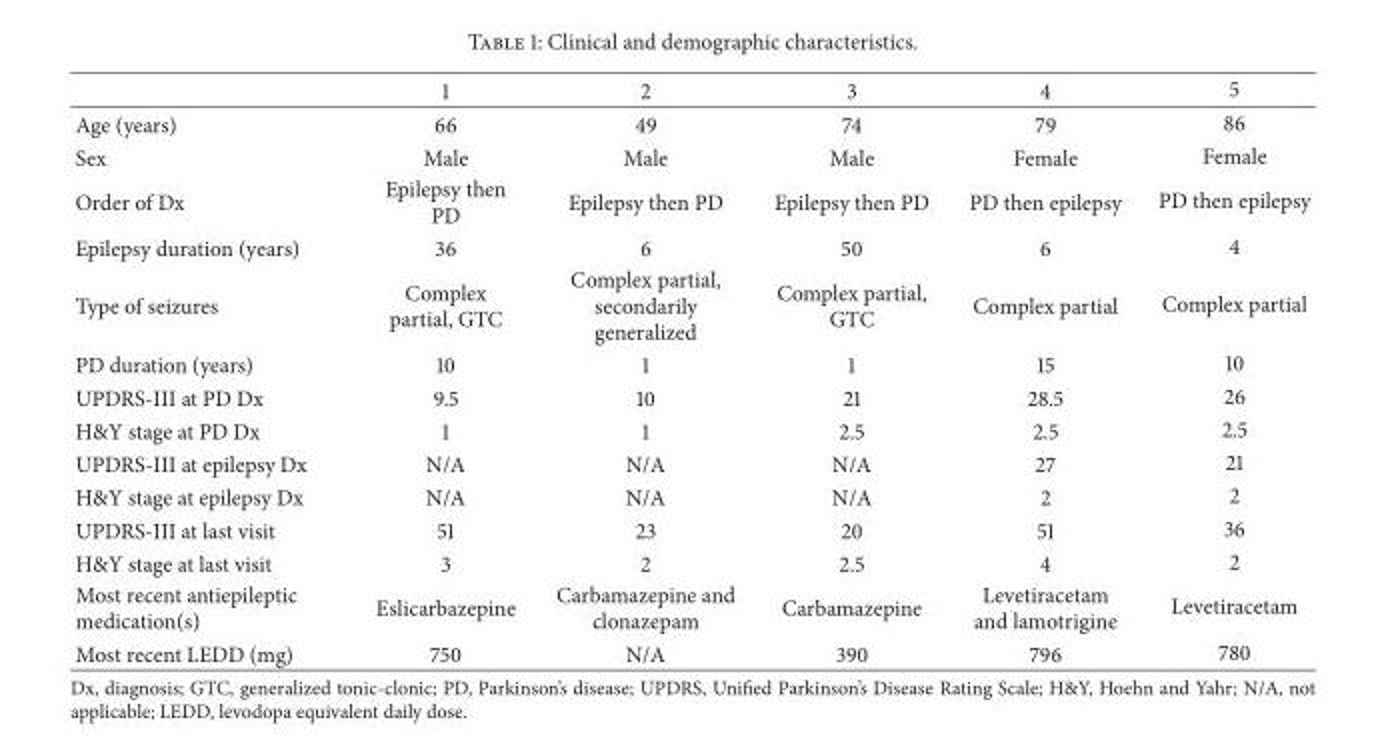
<table><thead><tr><td></td><td>1</td><td>2</td><td>3</td><td>4</td><td>5</td></tr></thead><tbody><tr><td>Age (years)</td><td>66</td><td>49</td><td>74</td><td>79</td><td>86</td></tr><tr><td>Sex</td><td>Male</td><td>Male</td><td>Male</td><td>Female</td><td>Female</td></tr><tr><td>Order of Dx</td><td>Epilepsy then PD</td><td>Epilepsy then PD</td><td>Epilepsy then PD</td><td>PD then epilepsy</td><td>PD then epilepsy</td></tr><tr><td>Epilepsy duration (years)</td><td>36</td><td>6</td><td>50</td><td>6</td><td>4</td></tr><tr><td>Type of seizures</td><td>Complex partial, GTC</td><td>Complex partial, secondarily generalized</td><td>Complex partial, GTC</td><td>Complex partial</td><td>Complex partial</td></tr><tr><td>PD duration (years)</td><td>10</td><td>1</td><td>1</td><td>15</td><td>10</td></tr><tr><td>UPDRS-III at PD Dx</td><td>9.5</td><td>10</td><td>21</td><td>28.5</td><td>26</td></tr><tr><td>H&amp;Y stage at PD Dx</td><td>1</td><td>1</td><td>2.5</td><td>2.5</td><td>2.5</td></tr><tr><td>UPDRS-III at epilepsy Dx</td><td>N/A</td><td>N/A</td><td>N/A</td><td>27</td><td>21</td></tr><tr><td>H&amp;Y stage at epilepsy Dx</td><td>N/A</td><td>N/A</td><td>N/A</td><td>2</td><td>2</td></tr><tr><td>UPDRS-III at last visit</td><td>51</td><td>23</td><td>20</td><td>51</td><td>36</td></tr><tr><td>H&amp;Y stage at last visit</td><td>3</td><td>2</td><td>2.5</td><td>4</td><td>2</td></tr><tr><td>Most recent antiepileptic medication(s)</td><td>Eslicarbazepine</td><td>Carbamazepine and clonazepam</td><td>Carbamazepine</td><td>Levetiracetam and lamotrigine</td><td>Levetiracetam</td></tr><tr><td>Most recent LEDD (mg)</td><td>750</td><td>N/A</td><td>390</td><td>796</td><td>780</td></tr></tbody></table>